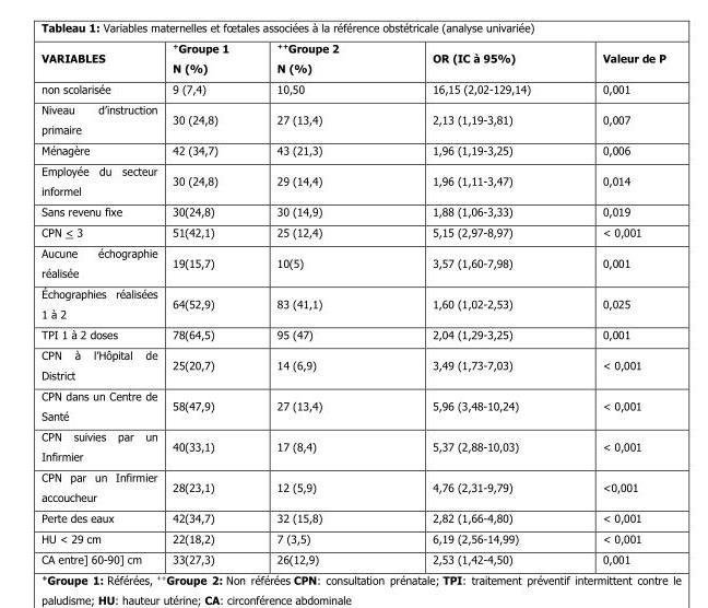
<table><thead><tr><td>VARIABLES</td><td><sup>+</sup>Groupe 1 N (%)</td><td><sup>++</sup>Groupe 2 N (%)</td><td>OR (IC à 95%)</td><td>Valeur de P</td></tr></thead><tbody><tr><td>non scolarisée</td><td>9 (7,4)</td><td>10,50</td><td>16,15 (2,02-129,14)</td><td>0,001</td></tr><tr><td>Niveau d’instruction primaire</td><td>30 (24,8)</td><td>27 (13,4)</td><td>2,13 (1,19-3,81)</td><td>0,007</td></tr><tr><td>Ménagère</td><td>42 (34,7)</td><td>43 (21,3)</td><td>1,96 (1,19-3,25)</td><td>0,006</td></tr><tr><td>Employée du secteur informel</td><td>30 (24,8)</td><td>29 (14,4)</td><td>1,96 (1,11-3,47)</td><td>0,014</td></tr><tr><td>Sans revenu fixe</td><td>30(24,8)</td><td>30 (14,9)</td><td>1,88 (1,06-3,33)</td><td>0,019</td></tr><tr><td>CPN &lt; 3</td><td>51(42,1)</td><td>25 (12,4)</td><td>5,15 (2,97-8,97)</td><td>&lt; 0,001</td></tr><tr><td>Aucune échographie réalisée</td><td>19(15,7)</td><td>10(5)</td><td>3,57 (1,60-7,98)</td><td>0,001</td></tr><tr><td>Échographies réalisées 1 à 2</td><td>64(52,9)</td><td>83 (41,1)</td><td>1,60 (1,02-2,53)</td><td>0,025</td></tr><tr><td>TPI 1 à 2 doses</td><td>78(64,5)</td><td>95 (47)</td><td>2,04 (1,29-3,25)</td><td>0,001</td></tr><tr><td>CPN à l’Hôpital de District</td><td>25(20,7)</td><td>14 (6,9)</td><td>3,49 (1,73-7,03)</td><td>&lt; 0,001</td></tr><tr><td>CPN dans un Centre de Santé</td><td>58(47,9)</td><td>27 (13,4)</td><td>5,96 (3,48-10,24)</td><td>&lt; 0,001</td></tr><tr><td>CPN suivies par un Infirmier</td><td>40(33,1)</td><td>17 (8,4)</td><td>5,37 (2,88-10,03)</td><td>&lt; 0,001</td></tr><tr><td>CPN par un Infirmier accoucheur</td><td>28(23,1)</td><td>12 (5,9)</td><td>4,76 (2,31-9,79)</td><td>&lt;0,001</td></tr><tr><td>Perte des eaux</td><td>42(34,7)</td><td>32 (15,8)</td><td>2,82 (1,66-4,80)</td><td>&lt; 0,001</td></tr><tr><td>HU &lt; 29 cm</td><td>22(18,2)</td><td>7 (3,5)</td><td>6,19 (2,56-14,99)</td><td>&lt; 0,001</td></tr><tr><td>CA entre] 60-90] cm</td><td>33(27,3)</td><td>26(12,9)</td><td>2,53 (1,42-4,50)</td><td>0,001</td></tr></tbody></table>